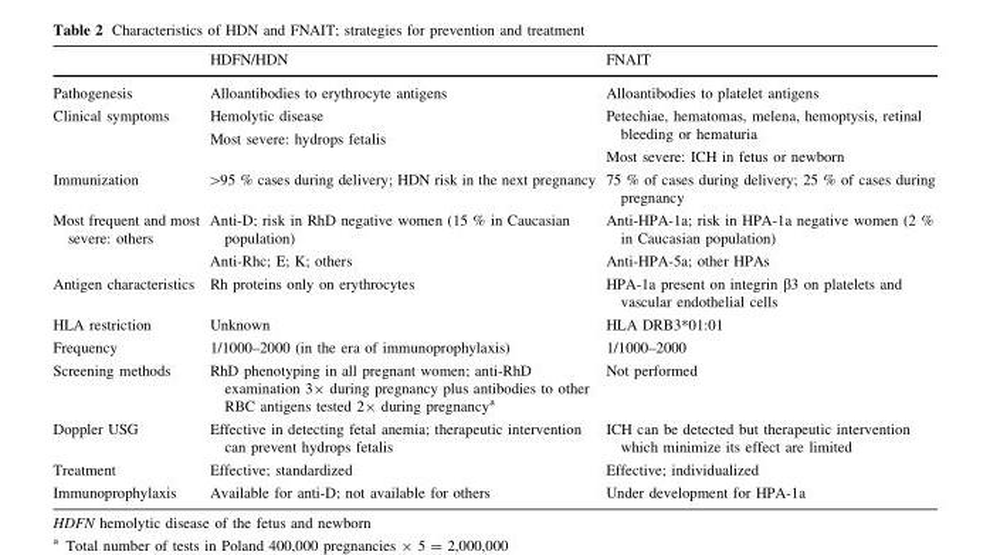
<table><thead><tr><td></td><td>HDFN/HDN</td><td>FNAIT</td></tr></thead><tbody><tr><td>Pathogenesis</td><td>Alloantibodies to erythrocyte antigens</td><td>Alloantibodies to platelet antigens</td></tr><tr><td>Clinical symptoms</td><td>Hemolytic disease Most severe: hydrops fetalis</td><td>Petechiae, hematomas, melena, hemoptysis, retinal bleeding or hematuria Most severe: ICH in fetus or newborn</td></tr><tr><td>Immunization</td><td>&gt;95 % cases during delivery; HDN risk in the next pregnancy</td><td>75 % of cases during delivery; 25 % of cases during pregnancy</td></tr><tr><td>Most frequent and most severe: others</td><td>Anti-D; risk in RhD negative women (15 % in Caucasian population) Anti-Rhc; E; K; others</td><td>Anti-HPA-1a; risk in HPA-1a negative women (2 % in Caucasian population) Anti-HPA-5a; other HPAs</td></tr><tr><td>Antigen characteristics</td><td>Rh proteins only on erythrocytes</td><td>HPA-1a present on integrin β3 on platelets and vascular endothelial cells</td></tr><tr><td>HLA restriction</td><td>Unknown</td><td>HLA DRB3*01:01</td></tr><tr><td>Frequency</td><td>1/1000–2000 (in the era of immunoprophylaxis)</td><td>1/1000–2000</td></tr><tr><td>Screening methods</td><td>RhD phenotyping in all pregnant women; anti-RhD examination 3× during pregnancy plus antibodies to other RBC antigens tested 2× during pregnancy<sup>a</sup></td><td>Not performed</td></tr><tr><td>Doppler USG</td><td>Effective in detecting fetal anemia; therapeutic intervention can prevent hydrops fetalis</td><td>ICH can be detected but therapeutic intervention which minimize its effect are limited</td></tr><tr><td>Treatment</td><td>Effective; standardized</td><td>Effective; individualized</td></tr><tr><td>Immunoprophylaxis</td><td>Available for anti-D; not available for others</td><td>Under development for HPA-1a</td></tr></tbody></table>